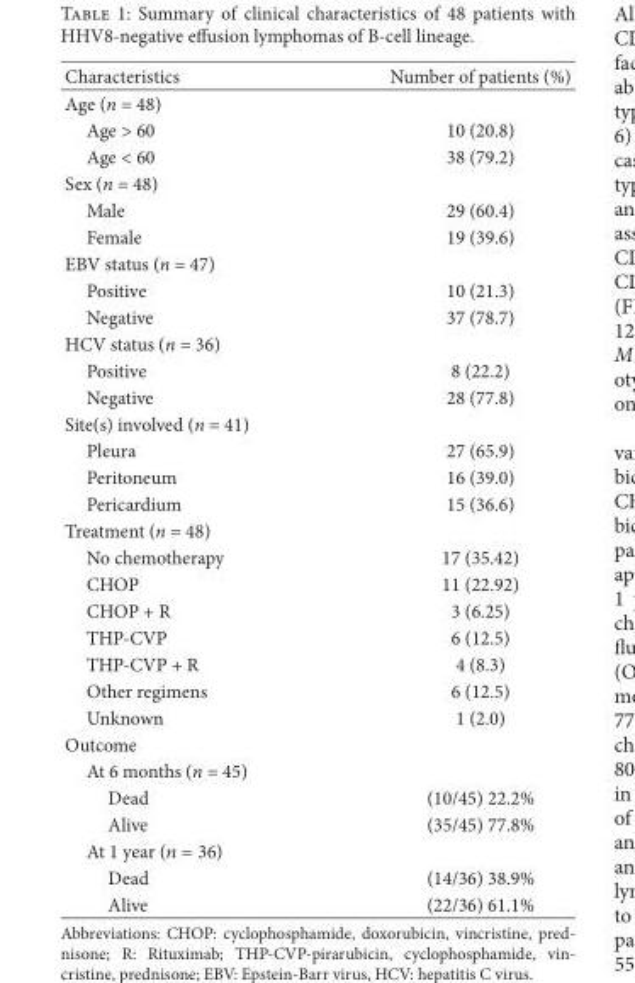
<table><thead><tr><td>Characteristics</td><td>Number of patients (%)</td></tr></thead><tbody><tr><td colspan="2">Age (n = 48)</td></tr><tr><td>Age &gt; 60</td><td>10 (20.8)</td></tr><tr><td>Age &lt; 60</td><td>38 (79.2)</td></tr><tr><td colspan="2">Sex (n = 48)</td></tr><tr><td>Male</td><td>29 (60.4)</td></tr><tr><td>Female</td><td>19 (39.6)</td></tr><tr><td colspan="2">EBV status (n = 47)</td></tr><tr><td>Positive</td><td>10 (21.3)</td></tr><tr><td>Negative</td><td>37 (78.7)</td></tr><tr><td colspan="2">HCV status (n = 36)</td></tr><tr><td>Positive</td><td>8 (22.2)</td></tr><tr><td>Negative</td><td>28 (77.8)</td></tr><tr><td colspan="2">Site(s) involved (n = 41)</td></tr><tr><td>Pleura</td><td>27 (65.9)</td></tr><tr><td>Peritoneum</td><td>16 (39.0)</td></tr><tr><td>Pericardium</td><td>15 (36.6)</td></tr><tr><td colspan="2">Treatment (n = 48)</td></tr><tr><td>No chemotherapy</td><td>17 (35.42)</td></tr><tr><td>CHOP</td><td>11 (22.92)</td></tr><tr><td>CHOP + R</td><td>3 (6.25)</td></tr><tr><td>THP-CVP</td><td>6 (12.5)</td></tr><tr><td>THP-CVP + R</td><td>4 (8.3)</td></tr><tr><td>Other regimens</td><td>6 (12.5)</td></tr><tr><td>Unknown</td><td>1 (2.0)</td></tr><tr><td colspan="2">Outcome</td></tr><tr><td colspan="2">At 6 months (n = 45)</td></tr><tr><td>Dead</td><td>(10/45) 22.2%</td></tr><tr><td>Alive</td><td>(35/45) 77.8%</td></tr><tr><td colspan="2">At 1 year (𝑛𝑛 𝑛 𝑛𝑛)</td></tr><tr><td>Dead</td><td>(14/36) 38.9%</td></tr><tr><td>Alive</td><td>(22/36) 61.1%</td></tr></tbody></table>